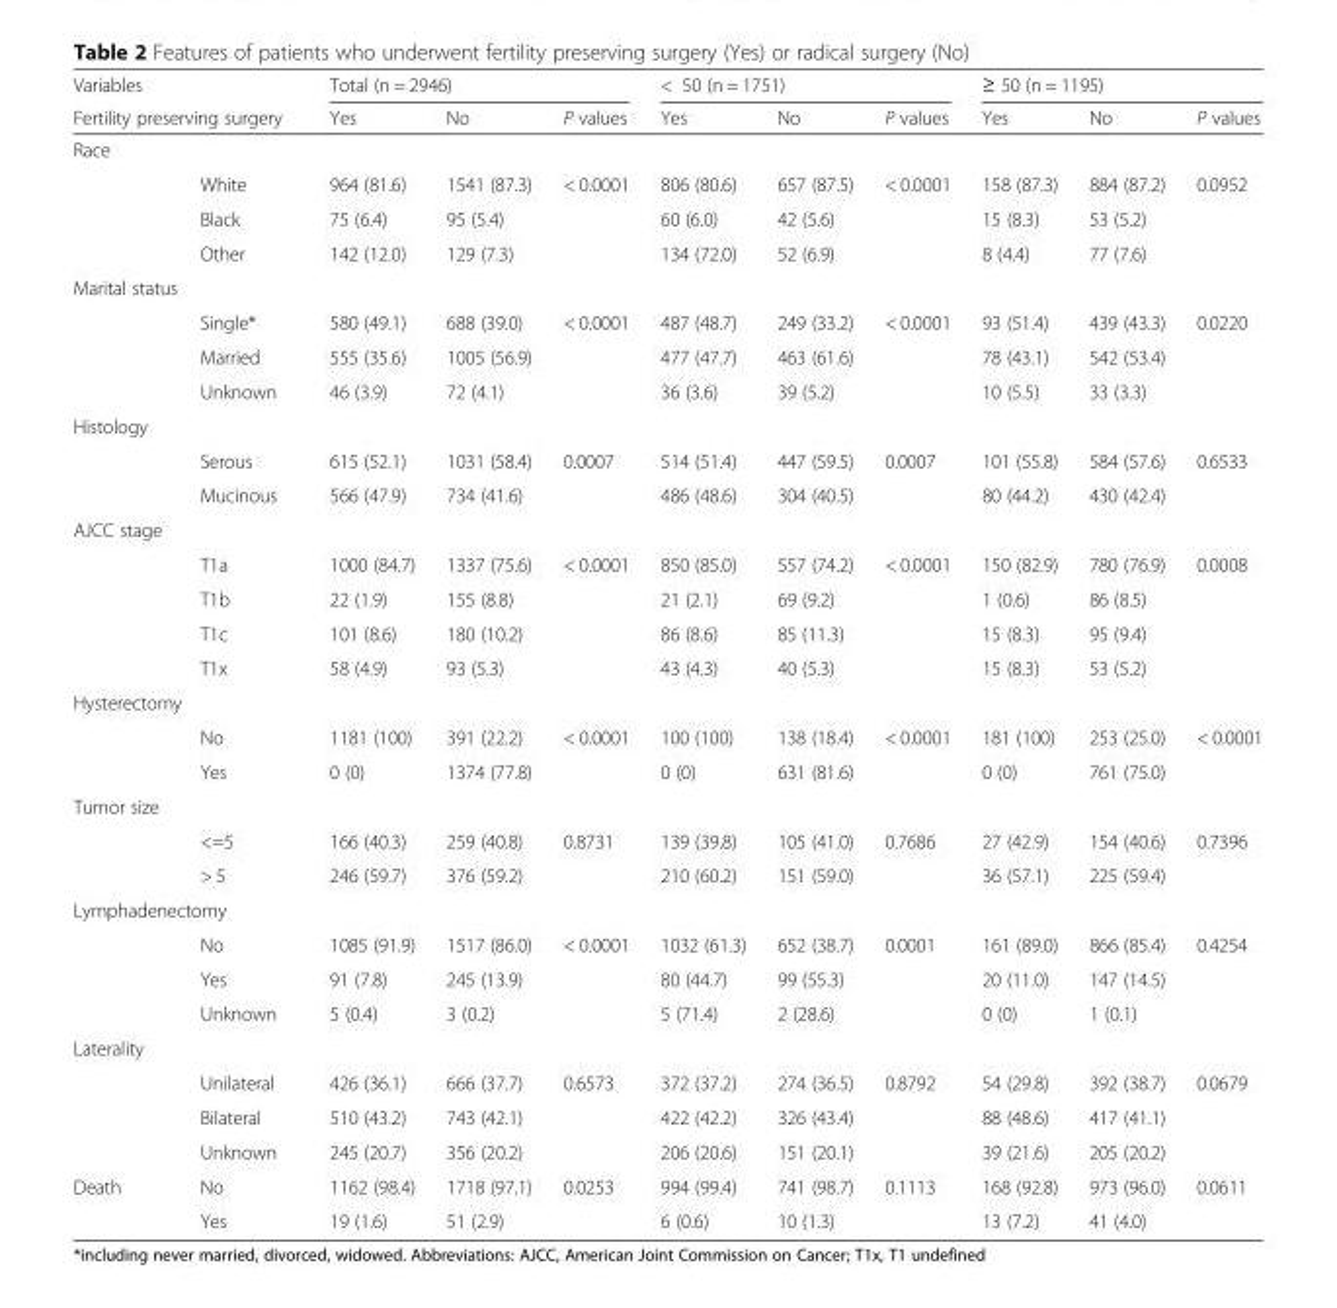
<table><thead><tr><td>Variables</td><td></td><td colspan="3">Total (n = 2946)</td><td colspan="3">&lt; 50 (n = 1751)</td><td colspan="3">≥ 50 (n = 1195)</td></tr><tr><td colspan="2">Fertility preserving surgery</td><td>Yes</td><td>No</td><td>P values</td><td>Yes</td><td>No</td><td>P values</td><td>Yes</td><td>No</td><td>P values</td></tr></thead><tbody><tr><td colspan="11">Race</td></tr><tr><td></td><td>White</td><td>964 (81.6)</td><td>1541 (87.3)</td><td>&lt; 0.0001</td><td>806 (80.6)</td><td>657 (87.5)</td><td>&lt; 0.0001</td><td>158 (87.3)</td><td>884 (87.2)</td><td>0.0952</td></tr><tr><td></td><td>Black</td><td>75 (6.4)</td><td>95 (5.4)</td><td></td><td>60 (6.0)</td><td>42 (5.6)</td><td></td><td>15 (8.3)</td><td>53 (5.2)</td><td></td></tr><tr><td></td><td>Other</td><td>142 (12.0)</td><td>129 (7.3)</td><td></td><td>134 (72.0)</td><td>52 (6.9)</td><td></td><td>8 (4.4)</td><td>77 (7.6)</td><td></td></tr><tr><td colspan="11">Marital status</td></tr><tr><td></td><td>Single*</td><td>580 (49.1)</td><td>688 (39.0)</td><td>&lt; 0.0001</td><td>487 (48.7)</td><td>249 (33.2)</td><td>&lt; 0.0001</td><td>93 (51.4)</td><td>439 (43.3)</td><td>0.0220</td></tr><tr><td></td><td>Married</td><td>555 (35.6)</td><td>1005 (56.9)</td><td></td><td>477 (47.7)</td><td>463 (61.6)</td><td></td><td>78 (43.1)</td><td>542 (53.4)</td><td></td></tr><tr><td></td><td>Unknown</td><td>46 (3.9)</td><td>72 (4.1)</td><td></td><td>36 (3.6)</td><td>39 (5.2)</td><td></td><td>10 (5.5)</td><td>33 (3.3)</td><td></td></tr><tr><td colspan="11">Histology</td></tr><tr><td></td><td>Serous</td><td>615 (52.1)</td><td>1031 (58.4)</td><td>0.0007</td><td>514 (51.4)</td><td>447 (59.5)</td><td>0.0007</td><td>101 (55.8)</td><td>584 (57.6)</td><td>0.6533</td></tr><tr><td></td><td>Mucinous</td><td>566 (47.9)</td><td>734 (41.6)</td><td></td><td>486 (48.6)</td><td>304 (40.5)</td><td></td><td>80 (44.2)</td><td>430 (42.4)</td><td></td></tr><tr><td colspan="11">AJCC stage</td></tr><tr><td></td><td>T1a</td><td>1000 (84.7)</td><td>1337 (75.6)</td><td>&lt; 0.0001</td><td>850 (85.0)</td><td>557 (74.2)</td><td>&lt; 0.0001</td><td>150 (82.9)</td><td>780 (76.9)</td><td>0.0008</td></tr><tr><td></td><td>T1b</td><td>22 (1.9)</td><td>155 (8.8)</td><td></td><td>21 (2.1)</td><td>69 (9.2)</td><td></td><td>1 (0.6)</td><td>86 (8.5)</td><td></td></tr><tr><td></td><td>T1c</td><td>101 (8.6)</td><td>180 (10.2)</td><td></td><td>86 (8.6)</td><td>85 (11.3)</td><td></td><td>15 (8.3)</td><td>95 (9.4)</td><td></td></tr><tr><td></td><td>T1x</td><td>58 (4.9)</td><td>93 (5.3)</td><td></td><td>43 (4.3)</td><td>40 (5.3)</td><td></td><td>15 (8.3)</td><td>53 (5.2)</td><td></td></tr><tr><td colspan="11">Hysterectomy</td></tr><tr><td></td><td>No</td><td>1181 (100)</td><td>391 (22.2)</td><td>&lt; 0.0001</td><td>100 (100)</td><td>138 (18.4)</td><td>&lt; 0.0001</td><td>181 (100)</td><td>253 (25.0)</td><td>&lt; 0.0001</td></tr><tr><td></td><td>Yes</td><td>0 (0)</td><td>1374 (77.8)</td><td></td><td>0 (0)</td><td>631 (81.6)</td><td></td><td>0 (0)</td><td>761 (75.0)</td><td></td></tr><tr><td colspan="11">Tumor size</td></tr><tr><td></td><td>&lt;=5</td><td>166 (40.3)</td><td>259 (40.8)</td><td>0.8731</td><td>139 (39.8)</td><td>105 (41.0)</td><td>0.7686</td><td>27 (42.9)</td><td>154 (40.6)</td><td>0.7396</td></tr><tr><td></td><td>&gt; 5</td><td>246 (59.7)</td><td>376 (59.2)</td><td></td><td>210 (60.2)</td><td>151 (59.0)</td><td></td><td>36 (57.1)</td><td>225 (59.4)</td><td></td></tr><tr><td colspan="11">Lymphadenectomy</td></tr><tr><td></td><td>No</td><td>1085 (91.9)</td><td>1517 (86.0)</td><td>&lt; 0.0001</td><td>1032 (61.3)</td><td>652 (38.7)</td><td>0.0001</td><td>161 (89.0)</td><td>866 (85.4)</td><td>0.4254</td></tr><tr><td></td><td>Yes</td><td>91 (7.8)</td><td>245 (13.9)</td><td></td><td>80 (44.7)</td><td>99 (55.3)</td><td></td><td>20 (11.0)</td><td>147 (14.5)</td><td></td></tr><tr><td></td><td>Unknown</td><td>5 (0.4)</td><td>3 (0.2)</td><td></td><td>5 (71.4)</td><td>2 (28.6)</td><td></td><td>0 (0)</td><td>1 (0.1)</td><td></td></tr><tr><td colspan="11">Laterality</td></tr><tr><td></td><td>Unilateral</td><td>426 (36.1)</td><td>666 (37.7)</td><td>0.6573</td><td>372 (37.2)</td><td>274 (36.5)</td><td>0.8792</td><td>54 (29.8)</td><td>392 (38.7)</td><td>0.0679</td></tr><tr><td></td><td>Bilateral</td><td>510 (43.2)</td><td>743 (42.1)</td><td></td><td>422 (42.2)</td><td>326 (43.4)</td><td></td><td>88 (48.6)</td><td>417 (41.1)</td><td></td></tr><tr><td></td><td>Unknown</td><td>245 (20.7)</td><td>356 (20.2)</td><td></td><td>206 (20.6)</td><td>151 (20.1)</td><td></td><td>39 (21.6)</td><td>205 (20.2)</td><td></td></tr><tr><td rowspan="2">Death</td><td>No</td><td>1162 (98.4)</td><td>1718 (97.1)</td><td>0.0253</td><td>994 (99.4)</td><td>741 (98.7)</td><td>0.1113</td><td>168 (92.8)</td><td>973 (96.0)</td><td>0.0611</td></tr><tr><td>Yes</td><td>19 (1.6)</td><td>51 (2.9)</td><td></td><td>6 (0.6)</td><td>10 (1.3)</td><td></td><td>13 (7.2)</td><td>41 (4.0)</td><td></td></tr></tbody></table>